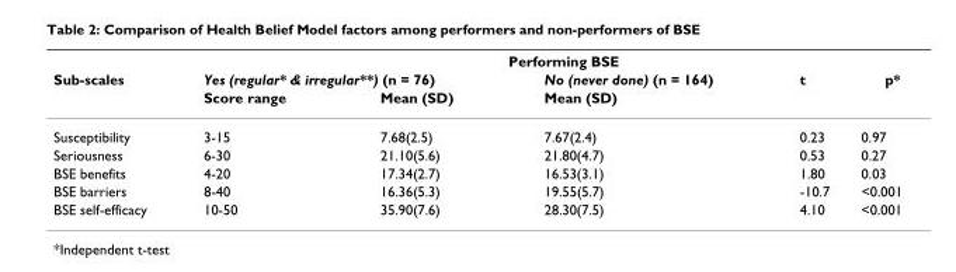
<table><thead><tr><td rowspan="3">Sub-scales</td><td colspan="5">Performing BSE</td></tr><tr><td colspan="2">Yes (regular* &amp; irregular**) (n = 76)</td><td rowspan="2">No (never done) (n = 164) Mean (SD)</td><td rowspan="2">t</td><td rowspan="2">p*</td></tr><tr><td>Score range</td><td>Mean (SD)</td></tr></thead><tbody><tr><td>Susceptibility</td><td>3-15</td><td>7.68(2.5)</td><td>7.67(2.4)</td><td>0.23</td><td>0.97</td></tr><tr><td>Seriousness</td><td>6-30</td><td>21.10(5.6)</td><td>21.80(4.7)</td><td>0.53</td><td>0.27</td></tr><tr><td>BSE benefits</td><td>4-20</td><td>17.34(2.7)</td><td>16.53(3.1)</td><td>1.80</td><td>0.03</td></tr><tr><td>BSE barriers</td><td>8-40</td><td>16.36(5.3)</td><td>19.55(5.7)</td><td>-10.7</td><td>&lt;0.001</td></tr><tr><td>BSE self-efficacy</td><td>10-50</td><td>35.90(7.6)</td><td>28.30(7.5)</td><td>4.10</td><td>&lt;0.001</td></tr></tbody></table>